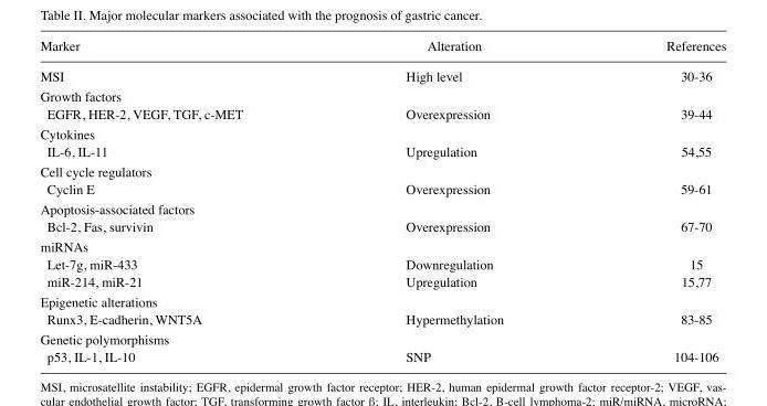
<table><thead><tr><td>Marker</td><td>Alteration</td><td>References</td></tr></thead><tbody><tr><td>MSI</td><td>High level</td><td>30-36</td></tr><tr><td colspan="3">Growth factors</td></tr><tr><td>EGFR, HER‑2, VEGF, TGF, c‑MET</td><td>Overexpression</td><td>39‑44</td></tr><tr><td colspan="3">Cytokines</td></tr><tr><td>IL-6, IL-11</td><td>Upregulation</td><td>54,55</td></tr><tr><td colspan="3">Cell cycle regulators</td></tr><tr><td>Cyclin E</td><td>Overexpression</td><td>59-61</td></tr><tr><td colspan="3">Apoptosis-associated factors</td></tr><tr><td>Bcl‑2, Fas, survivin</td><td>Overexpression</td><td>67‑70</td></tr><tr><td colspan="3">miRNAs</td></tr><tr><td>Let-7g, miR-433</td><td>Downregulation</td><td>15</td></tr><tr><td>miR-214, miR-21</td><td>Upregulation</td><td>15,77</td></tr><tr><td colspan="3">Epigenetic alterations</td></tr><tr><td>Runx3, E-cadherin, WNT5A</td><td>Hypermethylation</td><td>83-85</td></tr><tr><td colspan="3">Genetic polymorphisms</td></tr><tr><td>p53, IL-1, IL-10</td><td>SNP</td><td>104-106</td></tr></tbody></table>